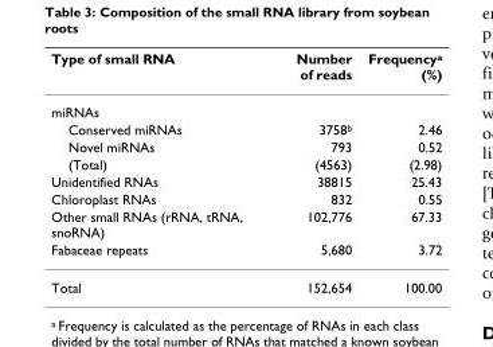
<table><thead><tr><td>Type of small RNA</td><td>Number of reads</td><td>Frequency<sup>a</sup> (%)</td></tr></thead><tbody><tr><td colspan="3">miRNAs</td></tr><tr><td>Conserved miRNAs</td><td>3758<sup>b</sup></td><td>2.46</td></tr><tr><td>Novel miRNAs</td><td>793</td><td>0.52</td></tr><tr><td>(Total)</td><td>(4563)</td><td>(2.98)</td></tr><tr><td>Unidentified RNAs</td><td>38815</td><td>25.43</td></tr><tr><td>Chloroplast RNAs</td><td>832</td><td>0.55</td></tr><tr><td>Other small RNAs (rRNA, tRNA, snoRNA)</td><td>102,776</td><td>67.33</td></tr><tr><td>Fabaceae repeats</td><td>5,680</td><td>3.72</td></tr><tr><td>Total</td><td>152,654</td><td>100.00</td></tr></tbody></table>